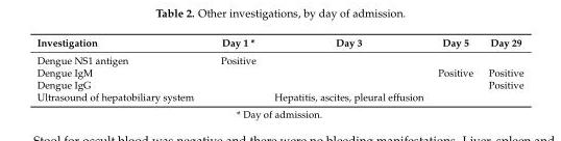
<table><thead><tr><td>Investigation</td><td>Day 1 *</td><td>Day 3</td><td>Day 5</td><td>Day 29</td></tr></thead><tbody><tr><td>Dengue NS1 antigen</td><td>Positive</td><td></td><td></td><td></td></tr><tr><td>Dengue IgM</td><td></td><td></td><td>Positive</td><td>Positive</td></tr><tr><td>Dengue IgG</td><td></td><td></td><td></td><td>Positive</td></tr><tr><td>Ultrasound of hepatobiliary system</td><td></td><td>Hepatitis, ascites, pleural effusion</td><td></td><td></td></tr></tbody></table>